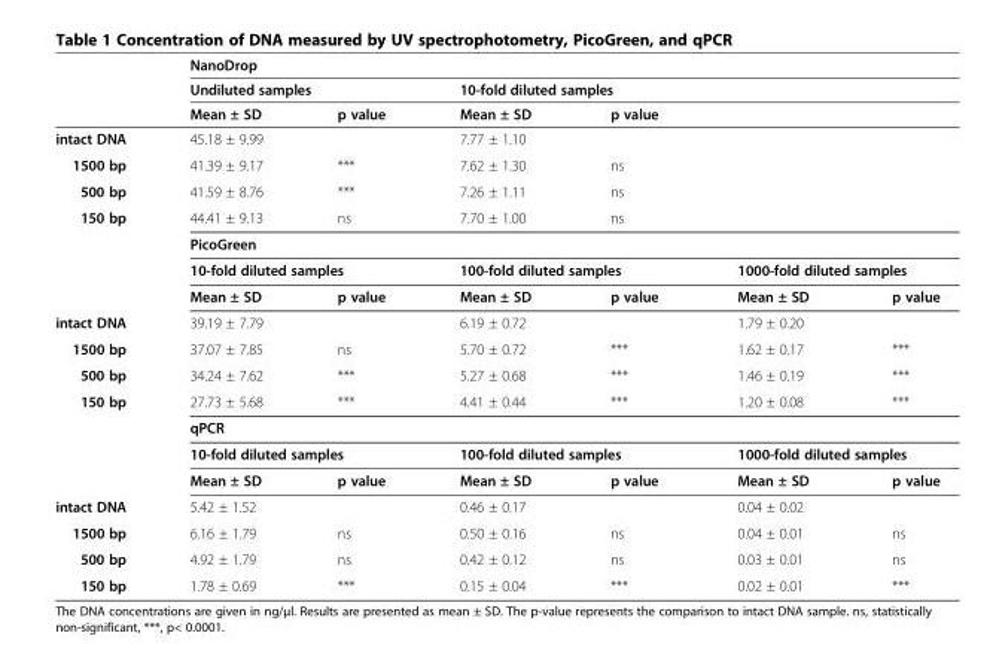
<table><thead><tr><td rowspan="3"></td><td colspan="6">NanoDrop</td></tr><tr><td colspan="2">Undiluted samples</td><td colspan="2">10-fold diluted samples</td><td rowspan="2"></td><td rowspan="2"></td></tr><tr><td>Mean ± SD</td><td>p value</td><td>Mean ± SD</td><td>p value</td></tr></thead><tbody><tr><td>intact DNA</td><td>45.18 ± 9.99</td><td></td><td>7.77 ± 1.10</td><td></td><td></td><td></td></tr><tr><td>1500 bp</td><td>41.39 ± 9.17</td><td>***</td><td>7.62 ± 1.30</td><td>ns</td><td></td><td></td></tr><tr><td>500 bp</td><td>41.59 ± 8.76</td><td>***</td><td>7.26 ± 1.11</td><td>ns</td><td></td><td></td></tr><tr><td rowspan="4">150 bp</td><td>44.41 ± 9.13</td><td>ns</td><td>7.70 ± 1.00</td><td>ns</td><td></td><td></td></tr><tr><td colspan="6">PicoGreen</td></tr><tr><td colspan="2">10-fold diluted samples</td><td colspan="2">100-fold diluted samples</td><td colspan="2">1000-fold diluted samples</td></tr><tr><td>Mean ± SD</td><td>p value</td><td>Mean ± SD</td><td>p value</td><td>Mean ± SD</td><td>p value</td></tr><tr><td>intact DNA</td><td>39.19 ± 7.79</td><td></td><td>6.19 ± 0.72</td><td></td><td>1.79 ± 0.20</td><td></td></tr><tr><td>1500 bp</td><td>37.07 ± 7.85</td><td>ns</td><td>5.70 ± 0.72</td><td>***</td><td>1.62 ± 0.17</td><td>***</td></tr><tr><td>500 bp</td><td>34.24 ± 7.62</td><td>***</td><td>5.27 ± 0.68</td><td>***</td><td>1.46 ± 0.19</td><td>***</td></tr><tr><td rowspan="4">150 bp</td><td>27.73 ± 5.68</td><td>***</td><td>4.41 ± 0.44</td><td>***</td><td>1.20 ± 0.08</td><td>***</td></tr><tr><td colspan="6">qPCR</td></tr><tr><td colspan="2">10-fold diluted samples</td><td colspan="2">100-fold diluted samples</td><td colspan="2">1000-fold diluted samples</td></tr><tr><td>Mean ± SD</td><td>p value</td><td>Mean ± SD</td><td>p value</td><td>Mean ± SD</td><td>p value</td></tr><tr><td>intact DNA</td><td>5.42 ± 1.52</td><td></td><td>0.46 ± 0.17</td><td></td><td>0.04 ± 0.02</td><td></td></tr><tr><td>1500 bp</td><td>6.16 ± 1.79</td><td>ns</td><td>0.50 ± 0.16</td><td>ns</td><td>0.04 ± 0.01</td><td>ns</td></tr><tr><td>500 bp</td><td>4.92 ± 1.79</td><td>ns</td><td>0.42 ± 0.12</td><td>ns</td><td>0.03 ± 0.01</td><td>ns</td></tr><tr><td>150 bp</td><td>1.78 ± 0.69</td><td>***</td><td>0.15 ± 0.04</td><td>***</td><td>0.02 ± 0.01</td><td>***</td></tr></tbody></table>